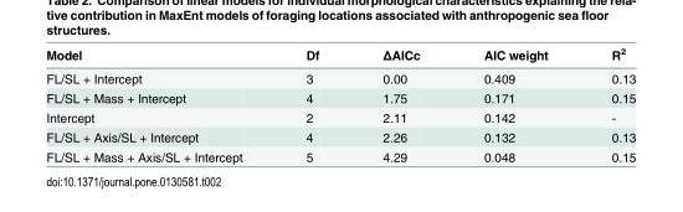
<table><thead><tr><td>Model</td><td>Df</td><td>ΔAICc</td><td>AIC weight</td><td>R<sup>2</sup></td></tr></thead><tbody><tr><td>FL/SL + Intercept</td><td>3</td><td>0.00</td><td>0.409</td><td>0.13</td></tr><tr><td>FL/SL + Mass + Intercept</td><td>4</td><td>1.75</td><td>0.171</td><td>0.15</td></tr><tr><td>Intercept</td><td>2</td><td>2.11</td><td>0.142</td><td>-</td></tr><tr><td>FL/SL + Axis/SL + Intercept</td><td>4</td><td>2.26</td><td>0.132</td><td>0.13</td></tr><tr><td>FL/SL + Mass + Axis/SL + Intercept</td><td>5</td><td>4.29</td><td>0.048</td><td>0.15</td></tr></tbody></table>